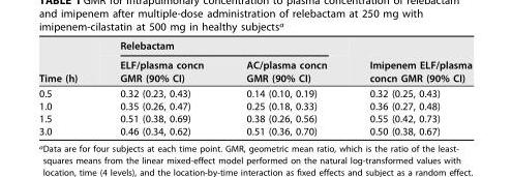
<table><thead><tr><td rowspan="2">Time (h)</td><td colspan="2">Relebactam</td><td rowspan="2">Imipenem ELF/plasma concn GMR (90% CI)</td></tr><tr><td>ELF/plasma concn GMR (90% CI)</td><td>AC/plasma concn GMR (90% CI)</td></tr></thead><tbody><tr><td>0.5</td><td>0.32 (0.23, 0.43)</td><td>0.14 (0.10, 0.19)</td><td>0.32 (0.25, 0.43)</td></tr><tr><td>1.0</td><td>0.35 (0.26, 0.47)</td><td>0.25 (0.18, 0.33)</td><td>0.36 (0.27, 0.48)</td></tr><tr><td>1.5</td><td>0.51 (0.38, 0.69)</td><td>0.38 (0.26, 0.56)</td><td>0.55 (0.42, 0.73)</td></tr><tr><td>3.0</td><td>0.46 (0.34, 0.62)</td><td>0.51 (0.36, 0.70)</td><td>0.50 (0.38, 0.67)</td></tr></tbody></table>